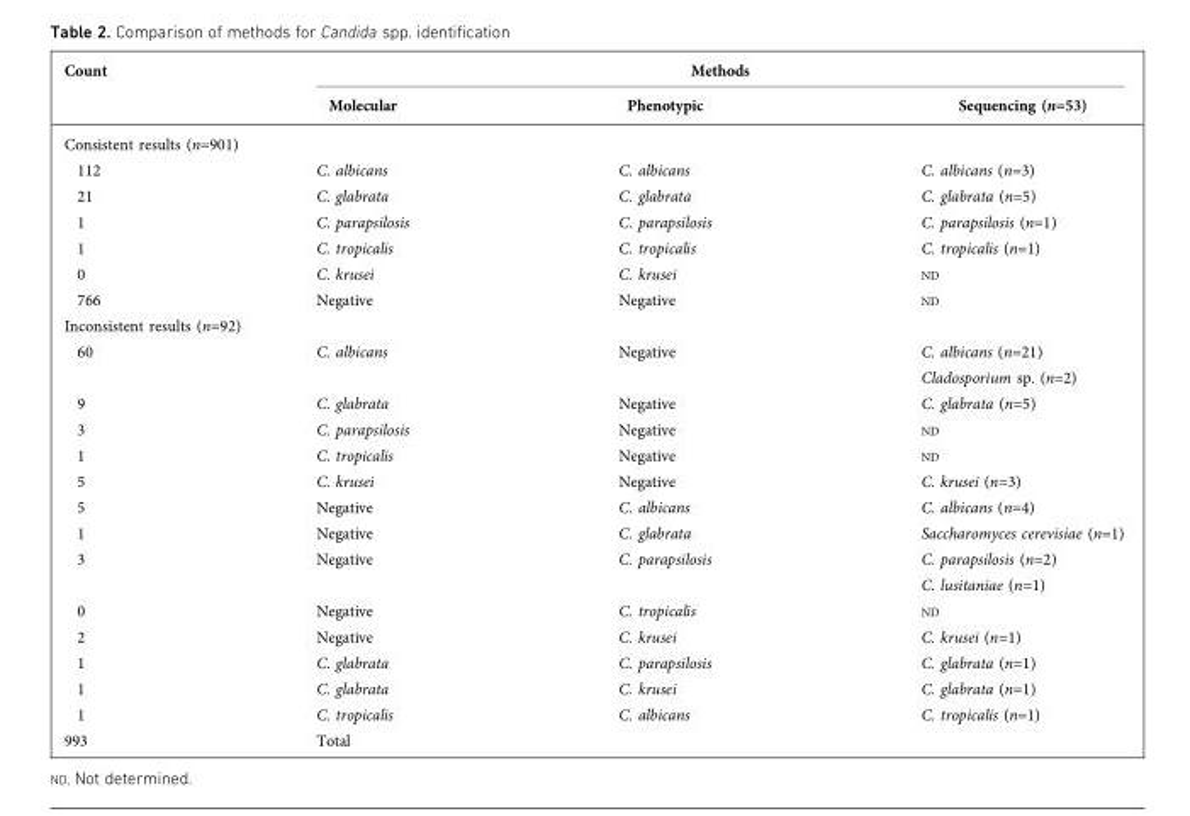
<table><thead><tr><td rowspan="2">Count</td><td colspan="3">Methods</td></tr><tr><td>Molecular</td><td>Phenotypic</td><td>Sequencing (n=53)</td></tr></thead><tbody><tr><td colspan="4">Consistent results (n=901)</td></tr><tr><td>112</td><td>C. albicans</td><td>C. albicans</td><td>C. albicans (n=3)</td></tr><tr><td>21</td><td>C. glabrata</td><td>C. glabrata</td><td>C. glabrata (n=5)</td></tr><tr><td>1</td><td>C. parapsilosis</td><td>C. parapsilosis</td><td>C. parapsilosis (n=1)</td></tr><tr><td>1</td><td>C. tropicalis</td><td>C. tropicalis</td><td>C. tropicalis (n=1)</td></tr><tr><td>0</td><td>C. krusei</td><td>C. krusei</td><td>ND</td></tr><tr><td>766</td><td>Negative</td><td>Negative</td><td>ND</td></tr><tr><td colspan="4">Inconsistent results (n=92)</td></tr><tr><td rowspan="2">60</td><td>C. albicans</td><td>Negative</td><td>C. albicans (n=21)</td></tr><tr><td></td><td></td><td>Cladosporium sp. (n=2)</td></tr><tr><td>9</td><td>C. glabrata</td><td>Negative</td><td>C. glabrata (n=5)</td></tr><tr><td>3</td><td>C. parapsilosis</td><td>Negative</td><td>ND</td></tr><tr><td>1</td><td>C. tropicalis</td><td>Negative</td><td>ND</td></tr><tr><td>5</td><td>C. krusei</td><td>Negative</td><td>C. krusei (n=3)</td></tr><tr><td>5</td><td>Negative</td><td>C. albicans</td><td>C. albicans (n=4)</td></tr><tr><td>1</td><td>Negative</td><td>C. glabrata</td><td>Saccharomyces cerevisiae (n=1)</td></tr><tr><td rowspan="2">3</td><td>Negative</td><td>C. parapsilosis</td><td>C. parapsilosis (n=2)</td></tr><tr><td></td><td></td><td>C. lusitaniae (n=1)</td></tr><tr><td>0</td><td>Negative</td><td>C. tropicalis</td><td>ND</td></tr><tr><td>2</td><td>Negative</td><td>C. krusei</td><td>C. krusei (n=1)</td></tr><tr><td>1</td><td>C. glabrata</td><td>C. parapsilosis</td><td>C. glabrata (n=1)</td></tr><tr><td>1</td><td>C. glabrata</td><td>C. krusei</td><td>C. glabrata (n=1)</td></tr><tr><td>1</td><td>C. tropicalis</td><td>C. albicans</td><td>C. tropicalis (n=1)</td></tr><tr><td>993</td><td colspan="3">Total</td></tr></tbody></table>